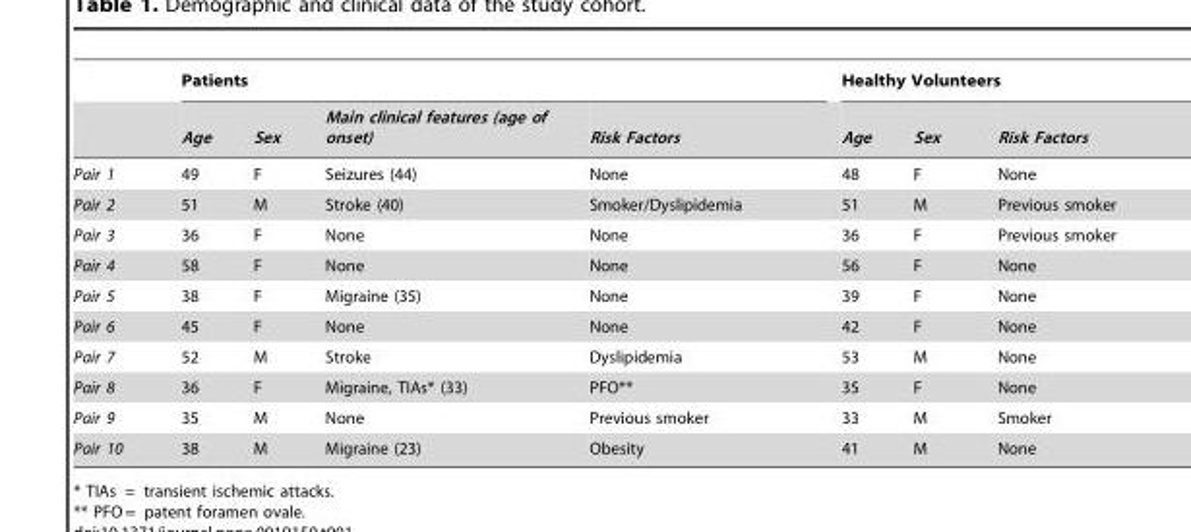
<table><thead><tr><td rowspan="2"></td><td colspan="4">Patients</td><td colspan="3">Healthy Volunteers</td></tr><tr><td>Age</td><td>Sex</td><td>Main clinical features (age of onset)</td><td>Risk Factors</td><td>Age</td><td>Sex</td><td>Risk Factors</td></tr></thead><tbody><tr><td>Pair 1</td><td>49</td><td>F</td><td>Seizures (44)</td><td>None</td><td>48</td><td>F</td><td>None</td></tr><tr><td>Pair 2</td><td>51</td><td>M</td><td>Stroke (40)</td><td>Smoker/Dyslipidemia</td><td>51</td><td>M</td><td>Previous smoker</td></tr><tr><td>Pair 3</td><td>36</td><td>F</td><td>None</td><td>None</td><td>36</td><td>F</td><td>Previous smoker</td></tr><tr><td>Pair 4</td><td>58</td><td>F</td><td>None</td><td>None</td><td>56</td><td>F</td><td>None</td></tr><tr><td>Pair 5</td><td>38</td><td>F</td><td>Migraine (35)</td><td>None</td><td>39</td><td>F</td><td>None</td></tr><tr><td>Pair 6</td><td>45</td><td>F</td><td>None</td><td>None</td><td>42</td><td>F</td><td>None</td></tr><tr><td>Pair 7</td><td>52</td><td>M</td><td>Stroke</td><td>Dyslipidemia</td><td>53</td><td>M</td><td>None</td></tr><tr><td>Pair 8</td><td>36</td><td>F</td><td>Migraine, TIAs* (33)</td><td>PFO**</td><td>35</td><td>F</td><td>None</td></tr><tr><td>Pair 9</td><td>35</td><td>M</td><td>None</td><td>Previous smoker</td><td>33</td><td>M</td><td>Smoker</td></tr><tr><td>Pair 10</td><td>38</td><td>M</td><td>Migraine (23)</td><td>Obesity</td><td>41</td><td>M</td><td>None</td></tr></tbody></table>